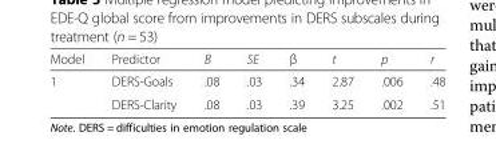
<table><thead><tr><td>Model</td><td>Predictor</td><td>Β</td><td>SE</td><td>β</td><td>t</td><td>p</td><td>r</td></tr></thead><tbody><tr><td rowspan="2">1</td><td>DERS-Goals</td><td>.08</td><td>.03</td><td>.34</td><td>2.87</td><td>.006</td><td>.48</td></tr><tr><td>DERS-Clarity</td><td>.08</td><td>.03</td><td>.39</td><td>3.25</td><td>.002</td><td>.51</td></tr></tbody></table>